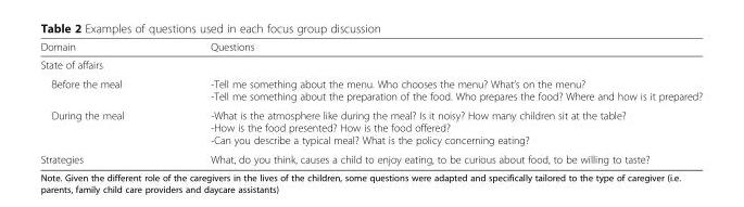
<table><thead><tr><td>Domain</td><td>Questions</td></tr></thead><tbody><tr><td colspan="2">State of affairs</td></tr><tr><td>Before the meal</td><td>-Tell me something about the menu. Who chooses the menu? What’s on the menu? -Tell me something about the preparation of the food. Who prepares the food? Where and how is it prepared?</td></tr><tr><td>During the meal</td><td>-What is the atmosphere like during the meal? Is it noisy? How many children sit at the table? -How is the food presented? How is the food offered? -Can you describe a typical meal? What is the policy concerning eating?</td></tr><tr><td>Strategies</td><td>What, do you think, causes a child to enjoy eating, to be curious about food, to be willing to taste?</td></tr></tbody></table>